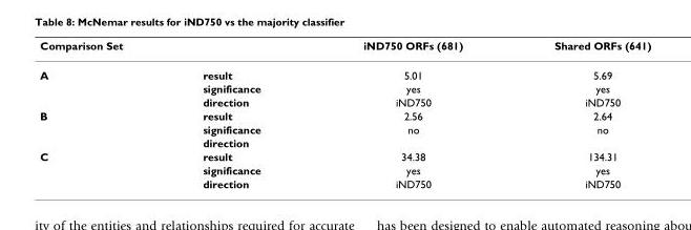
<table><thead><tr><td>Comparison Set</td><td></td><td>iND750 ORFs (681)</td><td>Shared ORFs (641)</td></tr></thead><tbody><tr><td rowspan="3">A</td><td>result</td><td>5.01</td><td>5.69</td></tr><tr><td>significance</td><td>yes</td><td>yes</td></tr><tr><td>direction</td><td>iND750</td><td>iND750</td></tr><tr><td rowspan="3">B</td><td>result</td><td>2.56</td><td>2.64</td></tr><tr><td>significance</td><td>no</td><td>no</td></tr><tr><td>direction</td><td></td><td></td></tr><tr><td rowspan="3">C</td><td>result</td><td>34.38</td><td>134.31</td></tr><tr><td>significance</td><td>yes</td><td>yes</td></tr><tr><td>direction</td><td>iND750</td><td>iND750</td></tr></tbody></table>